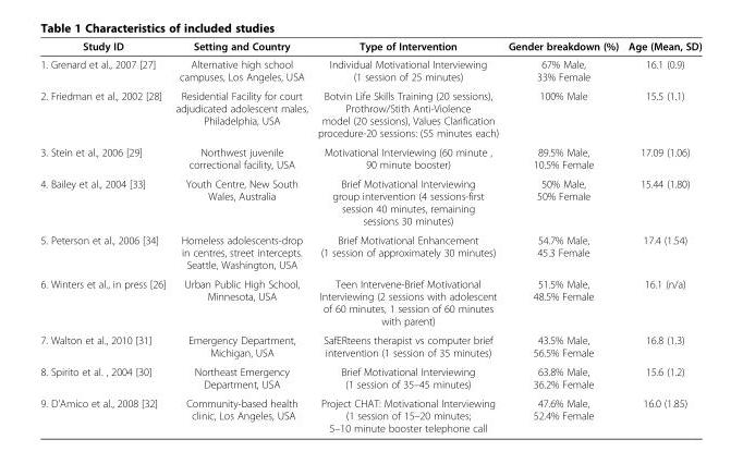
<table><thead><tr><td>Study ID</td><td>Setting and Country</td><td>Type of Intervention</td><td>Gender breakdown (%)</td><td>Age (Mean, SD)</td></tr></thead><tbody><tr><td>1. Grenard et al., 2007 [27]</td><td>Alternative high school campuses, Los Angeles, USA</td><td>Individual Motivational Interviewing (1 session of 25 minutes)</td><td>67% Male, 33% Female</td><td>16.1 (0.9)</td></tr><tr><td>2. Friedman et al., 2002 [28]</td><td>Residential Facility for court adjudicated adolescent males, Philadelphia, USA</td><td>Botvin Life Skills Training (20 sessions), Prothrow/Stith Anti-Violence model (20 sessions), Values Clarification procedure-20 sessions: (55 minutes each)</td><td>100% Male</td><td>15.5 (1.1)</td></tr><tr><td>3. Stein et al., 2006 [29]</td><td>Northwest juvenile correctional facility, USA</td><td>Motivational Interviewing (60 minute , 90 minute booster)</td><td>89.5% Male, 10.5% Female</td><td>17.09 (1.06)</td></tr><tr><td>4. Bailey et al., 2004 [33]</td><td>Youth Centre, New South Wales, Australia</td><td>Brief Motivational Interviewing group intervention (4 sessions-first session 40 minutes, remaining sessions 30 minutes)</td><td>50% Male, 50% Female</td><td>15.44 (1.80)</td></tr><tr><td>5. Peterson et al., 2006 [34]</td><td>Homeless adolescents-drop in centres, street intercepts. Seattle, Washington, USA</td><td>Brief Motivational Enhancement (1 session of approximately 30 minutes)</td><td>54.7% Male, 45.3 Female</td><td>17.4 (1.54)</td></tr><tr><td>6. Winters et al., in press [26]</td><td>Urban Public High School, Minnesota, USA</td><td>Teen Intervene-Brief Motivational Interviewing (2 sessions with adolescent of 60 minutes, 1 session of 60 minutes with parent)</td><td>51.5% Male, 48.5% Female</td><td>16.1 (n/a)</td></tr><tr><td>7. Walton et al., 2010 [31]</td><td>Emergency Department, Michigan, USA</td><td>SafERteens therapist vs computer brief intervention (1 session of 35 minutes)</td><td>43.5% Male, 56.5% Female</td><td>16.8 (1.3)</td></tr><tr><td>8. Spirito et al. , 2004 [30]</td><td>Northeast Emergency Department, USA</td><td>Brief Motivational Interviewing (1 session of 35–45 minutes)</td><td>63.8% Male, 36.2% Female</td><td>15.6 (1.2)</td></tr><tr><td>9. D’Amico et al., 2008 [32]</td><td>Community-based health clinic, Los Angeles, USA</td><td>Project CHAT: Motivational Interviewing (1 session of 15–20 minutes; 5–10 minute booster telephone call</td><td>47.6% Male, 52.4% Female</td><td>16.0 (1.85)</td></tr></tbody></table>